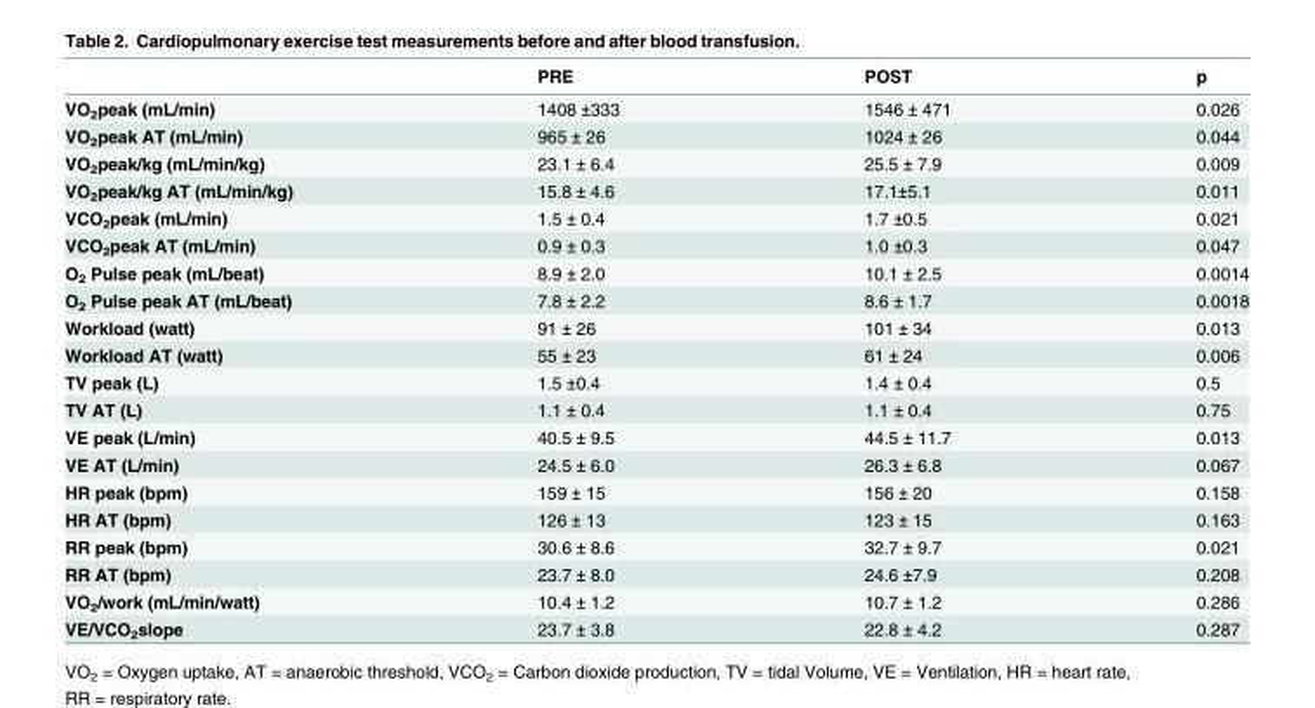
<table><thead><tr><td></td><td>PRE</td><td>POST</td><td>p</td></tr></thead><tbody><tr><td>VO<sub>2</sub>peak (mL/min)</td><td>1408 ±333</td><td>1546 ± 471</td><td>0.026</td></tr><tr><td>VO<sub>2</sub>peak AT (mL/min)</td><td>965 ± 26</td><td>1024 ± 26</td><td>0.044</td></tr><tr><td>VO<sub>2</sub>peak/kg (mL/min/kg)</td><td>23.1 ± 6.4</td><td>25.5 ± 7.9</td><td>0.009</td></tr><tr><td>VO<sub>2</sub>peak/kg AT (mL/min/kg)</td><td>15.8 ± 4.6</td><td>17.1±5.1</td><td>0.011</td></tr><tr><td>VCO<sub>2</sub>peak (mL/min)</td><td>1.5 ± 0.4</td><td>1.7 ±0.5</td><td>0.021</td></tr><tr><td>VCO<sub>2</sub>peak AT (mL/min)</td><td>0.9 ± 0.3</td><td>1.0 ±0.3</td><td>0.047</td></tr><tr><td>O<sub>2</sub> Pulse peak (mL/beat)</td><td>8.9 ± 2.0</td><td>10.1 ± 2.5</td><td>0.0014</td></tr><tr><td>O<sub>2</sub> Pulse peak AT (mL/beat)</td><td>7.8 ± 2.2</td><td>8.6 ± 1.7</td><td>0.0018</td></tr><tr><td>Workload (watt)</td><td>91 ± 26</td><td>101 ± 34</td><td>0.013</td></tr><tr><td>Workload AT (watt)</td><td>55 ± 23</td><td>61 ± 24</td><td>0.006</td></tr><tr><td>TV peak (L)</td><td>1.5 ±0.4</td><td>1.4 ± 0.4</td><td>0.5</td></tr><tr><td>TV AT (L)</td><td>1.1 ± 0.4</td><td>1.1 ± 0.4</td><td>0.75</td></tr><tr><td>VE peak (L/min)</td><td>40.5 ± 9.5</td><td>44.5 ± 11.7</td><td>0.013</td></tr><tr><td>VE AT (L/min)</td><td>24.5 ± 6.0</td><td>26.3 ± 6.8</td><td>0.067</td></tr><tr><td>HR peak (bpm)</td><td>159 ± 15</td><td>156 ± 20</td><td>0.158</td></tr><tr><td>HR AT (bpm)</td><td>126 ± 13</td><td>123 ± 15</td><td>0.163</td></tr><tr><td>RR peak (bpm)</td><td>30.6 ± 8.6</td><td>32.7 ± 9.7</td><td>0.021</td></tr><tr><td>RR AT (bpm)</td><td>23.7 ± 8.0</td><td>24.6 ±7.9</td><td>0.208</td></tr><tr><td>VO<sub>2</sub>/work (mL/min/watt)</td><td>10.4 ± 1.2</td><td>10.7 ± 1.2</td><td>0.286</td></tr><tr><td>VE/VCO<sub>2</sub>slope</td><td>23.7 ± 3.8</td><td>22.8 ± 4.2</td><td>0.287</td></tr></tbody></table>